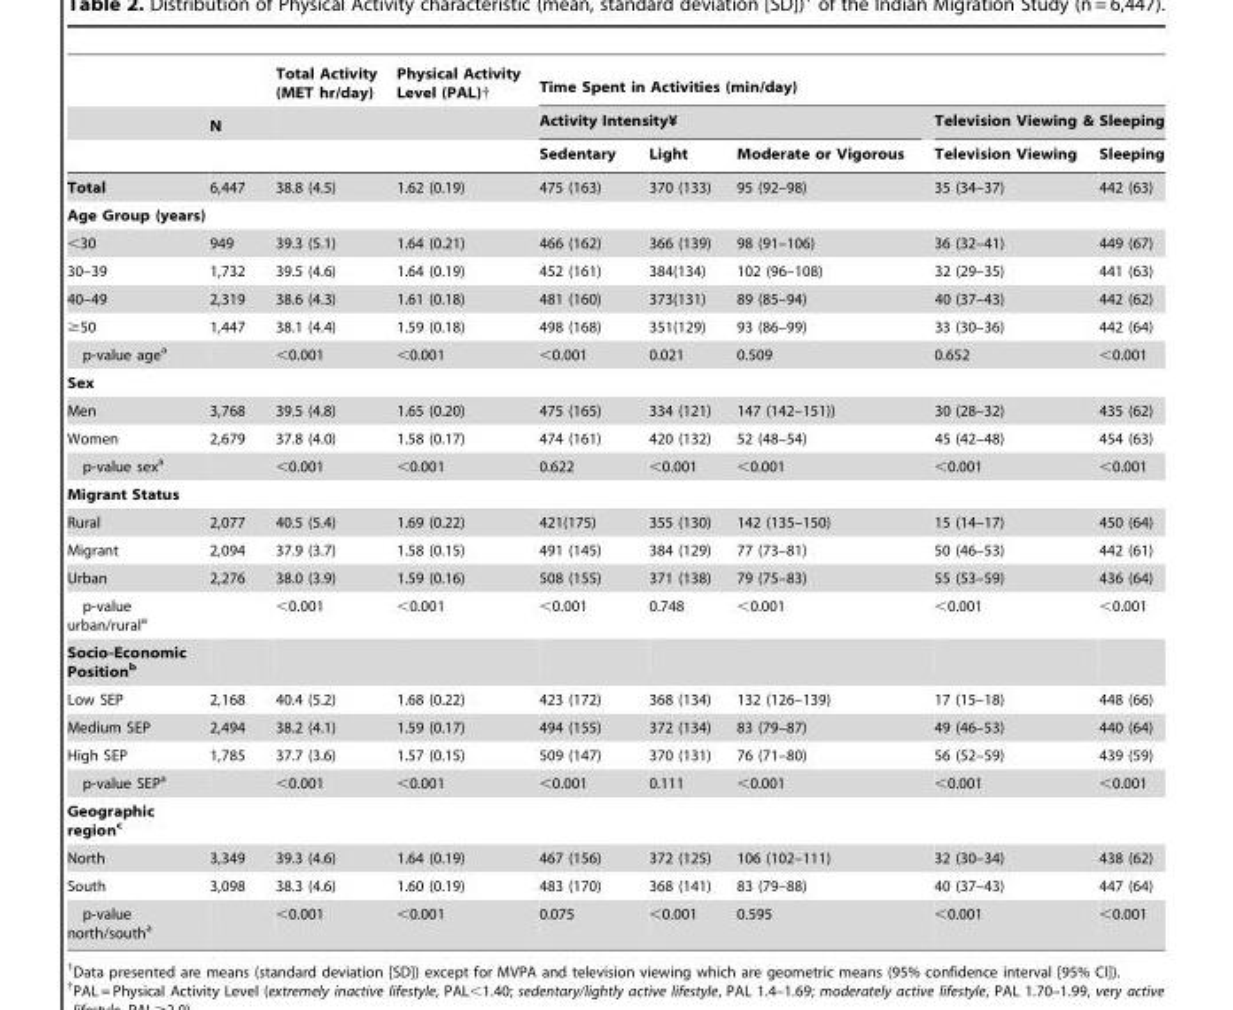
<table><thead><tr><td rowspan="3"></td><td rowspan="3">N</td><td rowspan="3">Total Activity (MET hr/day)</td><td rowspan="3">Physical Activity Level (PAL)†</td><td colspan="5">Time Spent in Activities (min/day)</td></tr><tr><td colspan="3">Activity Intensity¥</td><td colspan="2">Television Viewing &amp; Sleeping</td></tr><tr><td>Sedentary</td><td>Light</td><td>Moderate or Vigorous</td><td>Television Viewing</td><td>Sleeping</td></tr></thead><tbody><tr><td>Total</td><td>6,447</td><td>38.8 (4.5)</td><td>1.62 (0.19)</td><td>475 (163)</td><td>370 (133)</td><td>95 (92–98)</td><td>35 (34–37)</td><td>442 (63)</td></tr><tr><td colspan="9">Age Group (years)</td></tr><tr><td>&lt;30</td><td>949</td><td>39.3 (5.1)</td><td>1.64 (0.21)</td><td>466 (162)</td><td>366 (139)</td><td>98 (91–106)</td><td>36 (32–41)</td><td>449 (67)</td></tr><tr><td>30–39</td><td>1,732</td><td>39.5 (4.6)</td><td>1.64 (0.19)</td><td>452 (161)</td><td>384(134)</td><td>102 (96–108)</td><td>32 (29–35)</td><td>441 (63)</td></tr><tr><td>40–49</td><td>2,319</td><td>38.6 (4.3)</td><td>1.61 (0.18)</td><td>481 (160)</td><td>373(131)</td><td>89 (85–94)</td><td>40 (37–43)</td><td>442 (62)</td></tr><tr><td>≥50</td><td>1,447</td><td>38.1 (4.4)</td><td>1.59 (0.18)</td><td>498 (168)</td><td>351(129)</td><td>93 (86–99)</td><td>33 (30–36)</td><td>442 (64)</td></tr><tr><td>p-value age<sup>a</sup></td><td></td><td>&lt;0.001</td><td>&lt;0.001</td><td>&lt;0.001</td><td>0.021</td><td>0.509</td><td>0.652</td><td>&lt;0.001</td></tr><tr><td colspan="9">Sex</td></tr><tr><td>Men</td><td>3,768</td><td>39.5 (4.8)</td><td>1.65 (0.20)</td><td>475 (165)</td><td>334 (121)</td><td>147 (142–151))</td><td>30 (28–32)</td><td>435 (62)</td></tr><tr><td>Women</td><td>2,679</td><td>37.8 (4.0)</td><td>1.58 (0.17)</td><td>474 (161)</td><td>420 (132)</td><td>52 (48–54)</td><td>45 (42–48)</td><td>454 (63)</td></tr><tr><td>p-value sex<sup>a</sup></td><td></td><td>&lt;0.001</td><td>&lt;0.001</td><td>0.622</td><td>&lt;0.001</td><td>&lt;0.001</td><td>&lt;0.001</td><td>&lt;0.001</td></tr><tr><td colspan="9">Migrant Status</td></tr><tr><td>Rural</td><td>2,077</td><td>40.5 (5.4)</td><td>1.69 (0.22)</td><td>421(175)</td><td>355 (130)</td><td>142 (135–150)</td><td>15 (14–17)</td><td>450 (64)</td></tr><tr><td>Migrant</td><td>2,094</td><td>37.9 (3.7)</td><td>1.58 (0.15)</td><td>491 (145)</td><td>384 (129)</td><td>77 (73–81)</td><td>50 (46–53)</td><td>442 (61)</td></tr><tr><td>Urban</td><td>2,276</td><td>38.0 (3.9)</td><td>1.59 (0.16)</td><td>508 (155)</td><td>371 (138)</td><td>79 (75–83)</td><td>55 (53–59)</td><td>436 (64)</td></tr><tr><td>p-value urban/rural<sup>a</sup></td><td></td><td>&lt;0.001</td><td>&lt;0.001</td><td>&lt;0.001</td><td>0.748</td><td>&lt;0.001</td><td>&lt;0.001</td><td>&lt;0.001</td></tr><tr><td colspan="9">Socio-Economic Positionb</td></tr><tr><td>Low SEP</td><td>2,168</td><td>40.4 (5.2)</td><td>1.68 (0.22)</td><td>423 (172)</td><td>368 (134)</td><td>132 (126–139)</td><td>17 (15–18)</td><td>448 (66)</td></tr><tr><td>Medium SEP</td><td>2,494</td><td>38.2 (4.1)</td><td>1.59 (0.17)</td><td>494 (155)</td><td>372 (134)</td><td>83 (79–87)</td><td>49 (46–53)</td><td>440 (64)</td></tr><tr><td>High SEP</td><td>1,785</td><td>37.7 (3.6)</td><td>1.57 (0.15)</td><td>509 (147)</td><td>370 (131)</td><td>76 (71–80)</td><td>56 (52–59)</td><td>439 (59)</td></tr><tr><td>p-value SEP<sup>a</sup></td><td></td><td>&lt;0.001</td><td>&lt;0.001</td><td>&lt;0.001</td><td>0.111</td><td>&lt;0.001</td><td>&lt;0.001</td><td>&lt;0.001</td></tr><tr><td colspan="9">Geographic regionc</td></tr><tr><td>North</td><td>3,349</td><td>39.3 (4.6)</td><td>1.64 (0.19)</td><td>467 (156)</td><td>372 (125)</td><td>106 (102–111)</td><td>32 (30–34)</td><td>438 (62)</td></tr><tr><td>South</td><td>3,098</td><td>38.3 (4.6)</td><td>1.60 (0.19)</td><td>483 (170)</td><td>368 (141)</td><td>83 (79–88)</td><td>40 (37–43)</td><td>447 (64)</td></tr><tr><td>p-value north/south<sup>a</sup></td><td></td><td>&lt;0.001</td><td>&lt;0.001</td><td>0.075</td><td>&lt;0.001</td><td>0.595</td><td>&lt;0.001</td><td>&lt;0.001</td></tr></tbody></table>